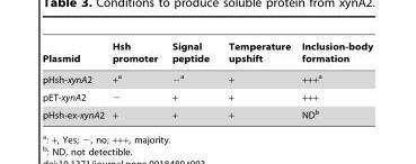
<table><thead><tr><td>Plasmid</td><td>Hsh promoter</td><td>Signal peptide</td><td>Temperature upshift</td><td>Inclusion-body formation</td></tr></thead><tbody><tr><td>pHsh-xynA2</td><td>+<sup>a</sup></td><td>−a</td><td>+</td><td>+++<sup>a</sup></td></tr><tr><td>pET-xynA2</td><td>−</td><td>+</td><td>+</td><td>+++</td></tr><tr><td>pHsh-ex-xynA2</td><td>+</td><td>+</td><td>+</td><td>ND<sup>b</sup></td></tr></tbody></table>